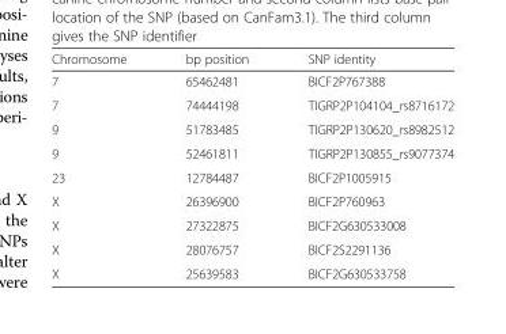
<table><thead><tr><td>Chromosome</td><td>bp position</td><td>SNP identity</td></tr></thead><tbody><tr><td>7</td><td>65462481</td><td>BICF2P767388</td></tr><tr><td>7</td><td>74444198</td><td>TIGRP2P104104_rs8716172</td></tr><tr><td>9</td><td>51783485</td><td>TIGRP2P130620_rs8982512</td></tr><tr><td>9</td><td>52461811</td><td>TIGRP2P130855_rs9077374</td></tr><tr><td>23</td><td>12784487</td><td>BICF2P1005915</td></tr><tr><td>X</td><td>26396900</td><td>BICF2P760963</td></tr><tr><td>X</td><td>27322875</td><td>BICF2G630533008</td></tr><tr><td>X</td><td>28076757</td><td>BICF2S2291136</td></tr><tr><td>X</td><td>25639583</td><td>BICF2G630533758</td></tr></tbody></table>